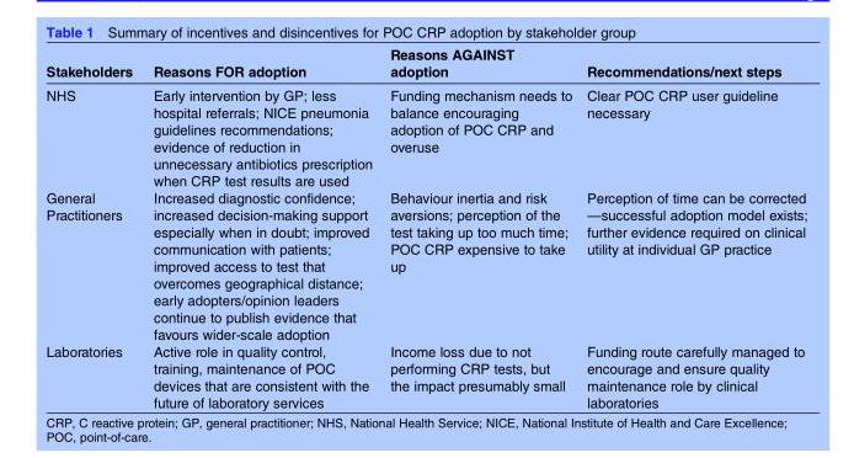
<table><thead><tr><td>Stakeholders</td><td>Reasons FOR adoption</td><td>Reasons AGAINST adoption</td><td>Recommendations/next steps</td></tr></thead><tbody><tr><td>NHS</td><td>Early intervention by GP; less hospital referrals; NICE pneumonia guidelines recommendations; evidence of reduction in unnecessary antibiotics prescription when CRP test results are used</td><td>Funding mechanism needs to balance encouraging adoption of POC CRP and overuse</td><td>Clear POC CRP user guideline necessary</td></tr><tr><td>General Practitioners</td><td>Increased diagnostic confidence; increased decision-making support especially when in doubt; improved communication with patients; improved access to test that overcomes geographical distance; early adopters/opinion leaders continue to publish evidence that favours wider-scale adoption</td><td>Behaviour inertia and risk aversions; perception of the test taking up too much time; POC CRP expensive to take up</td><td>Perception of time can be corrected —successful adoption model exists; further evidence required on clinical utility at individual GP practice</td></tr><tr><td>Laboratories</td><td>Active role in quality control, training, maintenance of POC devices that are consistent with the future of laboratory services</td><td>Income loss due to not performing CRP tests, but the impact presumably small</td><td>Funding route carefully managed to encourage and ensure quality maintenance role by clinical laboratories</td></tr></tbody></table>